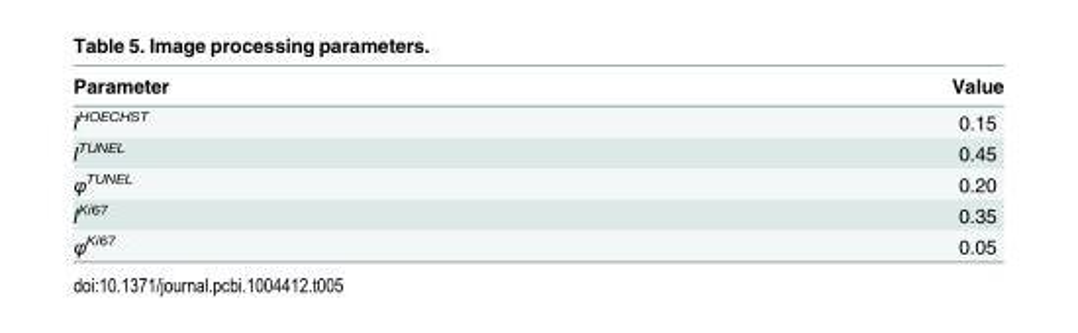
<table><thead><tr><td>Parameter</td><td>Value</td></tr></thead><tbody><tr><td>I<sup>HOECHST</sup></td><td>0.15</td></tr><tr><td>I<sup>TUNEL</sup></td><td>0.45</td></tr><tr><td>φ<sup>TUNEL</sup></td><td>0.20</td></tr><tr><td>I<sup>Ki67</sup></td><td>0.35</td></tr><tr><td>φ<sup>Ki67</sup></td><td>0.05</td></tr></tbody></table>